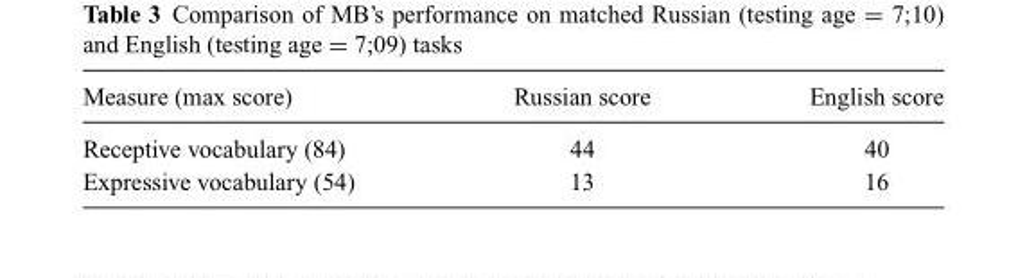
<table><thead><tr><td>Measure (max score)</td><td>Russian score</td><td>English score</td></tr></thead><tbody><tr><td>Receptive vocabulary (84)</td><td>44</td><td>40</td></tr><tr><td>Expressive vocabulary (54)</td><td>13</td><td>16</td></tr></tbody></table>